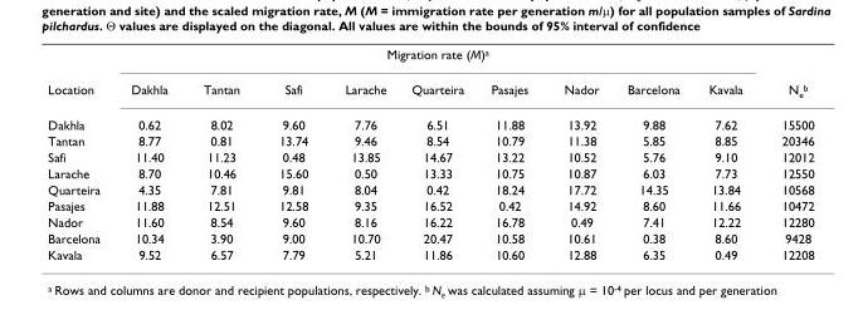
<table><thead><tr><td rowspan="2">Location</td><td colspan="9">Migration rate (M)<sup>a</sup></td><td rowspan="2">N<sub>e</sub><sup>b</sup></td></tr><tr><td>Dakhla</td><td>Tantan</td><td>Safi</td><td>Larache</td><td>Quarteira</td><td>Pasajes</td><td>Nador</td><td>Barcelona</td><td>Kavala</td></tr></thead><tbody><tr><td>Dakhla</td><td>0.62</td><td>8.02</td><td>9.60</td><td>7.76</td><td>6.51</td><td>11.88</td><td>13.92</td><td>9.88</td><td>7.62</td><td>15500</td></tr><tr><td>Tantan</td><td>8.77</td><td>0.81</td><td>13.74</td><td>9.46</td><td>8.54</td><td>10.79</td><td>11.38</td><td>5.85</td><td>8.85</td><td>20346</td></tr><tr><td>Safi</td><td>11.40</td><td>11.23</td><td>0.48</td><td>13.85</td><td>14.67</td><td>13.22</td><td>10.52</td><td>5.76</td><td>9.10</td><td>12012</td></tr><tr><td>Larache</td><td>8.70</td><td>10.46</td><td>15.60</td><td>0.50</td><td>13.33</td><td>10.75</td><td>10.87</td><td>6.03</td><td>7.73</td><td>12550</td></tr><tr><td>Quarteira</td><td>4.35</td><td>7.81</td><td>9.81</td><td>8.04</td><td>0.42</td><td>18.24</td><td>17.72</td><td>14.35</td><td>13.84</td><td>10568</td></tr><tr><td>Pasajes</td><td>11.88</td><td>12.51</td><td>12.58</td><td>9.35</td><td>16.52</td><td>0.42</td><td>14.92</td><td>8.60</td><td>11.66</td><td>10472</td></tr><tr><td>Nador</td><td>11.60</td><td>8.54</td><td>9.60</td><td>8.16</td><td>16.22</td><td>16.78</td><td>0.49</td><td>7.41</td><td>12.22</td><td>12280</td></tr><tr><td>Barcelona</td><td>10.34</td><td>3.90</td><td>9.00</td><td>10.70</td><td>20.47</td><td>10.58</td><td>10.61</td><td>0.38</td><td>8.60</td><td>9428</td></tr><tr><td>Kavala</td><td>9.52</td><td>6.57</td><td>7.79</td><td>5.21</td><td>11.86</td><td>10.60</td><td>12.88</td><td>6.35</td><td>0.49</td><td>12208</td></tr></tbody></table>